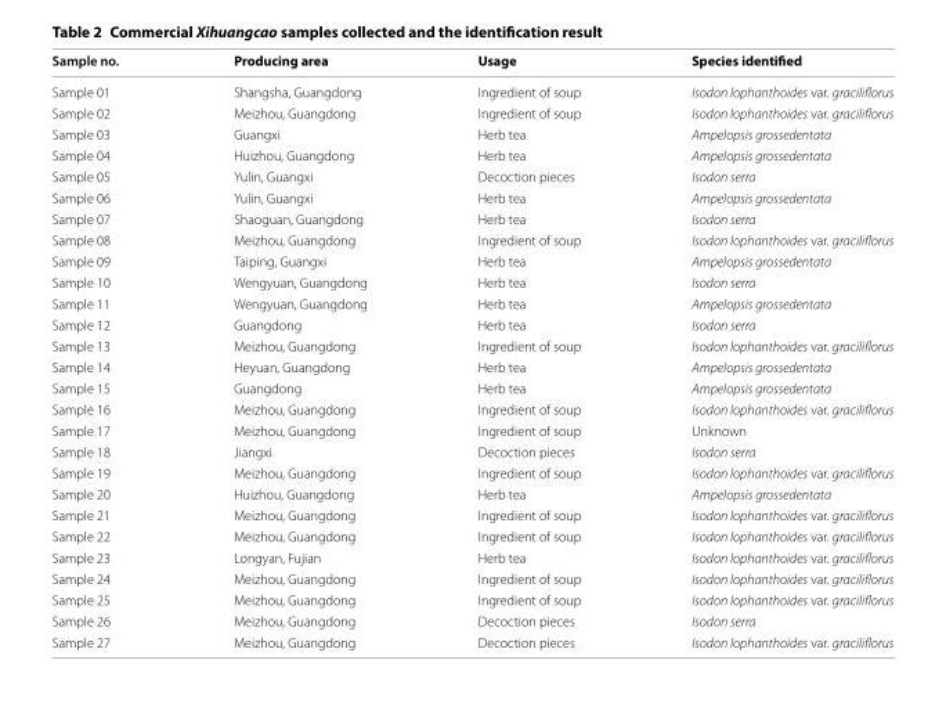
<table><thead><tr><td>Sample no.</td><td>Producing area</td><td>Usage</td><td>Species identified</td></tr></thead><tbody><tr><td>Sample 01</td><td>Shangsha, Guangdong</td><td>Ingredient of soup</td><td>Isodon lophanthoides var. graciliflorus</td></tr><tr><td>Sample 02</td><td>Meizhou, Guangdong</td><td>Ingredient of soup</td><td>Isodon lophanthoides var. graciliflorus</td></tr><tr><td>Sample 03</td><td>Guangxi</td><td>Herb tea</td><td>Ampelopsis grossedentata</td></tr><tr><td>Sample 04</td><td>Huizhou, Guangdong</td><td>Herb tea</td><td>Ampelopsis grossedentata</td></tr><tr><td>Sample 05</td><td>Yulin, Guangxi</td><td>Decoction pieces</td><td>Isodon serra</td></tr><tr><td>Sample 06</td><td>Yulin, Guangxi</td><td>Herb tea</td><td>Ampelopsis grossedentata</td></tr><tr><td>Sample 07</td><td>Shaoguan, Guangdong</td><td>Herb tea</td><td>Isodon serra</td></tr><tr><td>Sample 08</td><td>Meizhou, Guangdong</td><td>Ingredient of soup</td><td>Isodon lophanthoides var. graciliflorus</td></tr><tr><td>Sample 09</td><td>Taiping, Guangxi</td><td>Herb tea</td><td>Ampelopsis grossedentata</td></tr><tr><td>Sample 10</td><td>Wengyuan, Guangdong</td><td>Herb tea</td><td>Isodon serra</td></tr><tr><td>Sample 11</td><td>Wengyuan, Guangdong</td><td>Herb tea</td><td>Ampelopsis grossedentata</td></tr><tr><td>Sample 12</td><td>Guangdong</td><td>Herb tea</td><td>Isodon serra</td></tr><tr><td>Sample 13</td><td>Meizhou, Guangdong</td><td>Ingredient of soup</td><td>Isodon lophanthoides var. graciliflorus</td></tr><tr><td>Sample 14</td><td>Heyuan, Guangdong</td><td>Herb tea</td><td>Ampelopsis grossedentata</td></tr><tr><td>Sample 15</td><td>Guangdong</td><td>Herb tea</td><td>Ampelopsis grossedentata</td></tr><tr><td>Sample 16</td><td>Meizhou, Guangdong</td><td>Ingredient of soup</td><td>Isodon lophanthoides var. graciliflorus</td></tr><tr><td>Sample 17</td><td>Meizhou, Guangdong</td><td>Ingredient of soup</td><td>Unknown</td></tr><tr><td>Sample 18</td><td>Jiangxi</td><td>Decoction pieces</td><td>Isodon serra</td></tr><tr><td>Sample 19</td><td>Meizhou, Guangdong</td><td>Ingredient of soup</td><td>Isodon lophanthoides var. graciliflorus</td></tr><tr><td>Sample 20</td><td>Huizhou, Guangdong</td><td>Herb tea</td><td>Ampelopsis grossedentata</td></tr><tr><td>Sample 21</td><td>Meizhou, Guangdong</td><td>Ingredient of soup</td><td>Isodon lophanthoides var. graciliflorus</td></tr><tr><td>Sample 22</td><td>Meizhou, Guangdong</td><td>Ingredient of soup</td><td>Isodon lophanthoides var. graciliflorus</td></tr><tr><td>Sample 23</td><td>Longyan, Fujian</td><td>Herb tea</td><td>Isodon lophanthoides var. graciliflorus</td></tr><tr><td>Sample 24</td><td>Meizhou, Guangdong</td><td>Ingredient of soup</td><td>Isodon lophanthoides var. graciliflorus</td></tr><tr><td>Sample 25</td><td>Meizhou, Guangdong</td><td>Ingredient of soup</td><td>Isodon lophanthoides var. graciliflorus</td></tr><tr><td>Sample 26</td><td>Meizhou, Guangdong</td><td>Decoction pieces</td><td>Isodon serra</td></tr><tr><td>Sample 27</td><td>Meizhou, Guangdong</td><td>Decoction pieces</td><td>Isodon lophanthoides var. graciliflorus</td></tr></tbody></table>